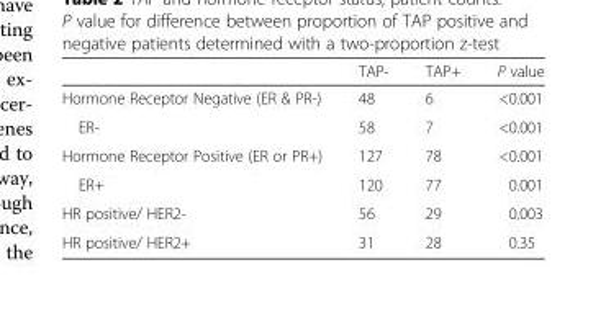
<table><thead><tr><td></td><td>TAP-</td><td>TAP+</td><td>P value</td></tr></thead><tbody><tr><td>Hormone Receptor Negative (ER &amp; PR-)</td><td>48</td><td>6</td><td>&lt;0.001</td></tr><tr><td>ER-</td><td>58</td><td>7</td><td>&lt;0.001</td></tr><tr><td>Hormone Receptor Positive (ER or PR+)</td><td>127</td><td>78</td><td>&lt;0.001</td></tr><tr><td>ER+</td><td>120</td><td>77</td><td>0.001</td></tr><tr><td>HR positive/ HER2-</td><td>56</td><td>29</td><td>0.003</td></tr><tr><td>HR positive/ HER2+</td><td>31</td><td>28</td><td>0.35</td></tr></tbody></table>